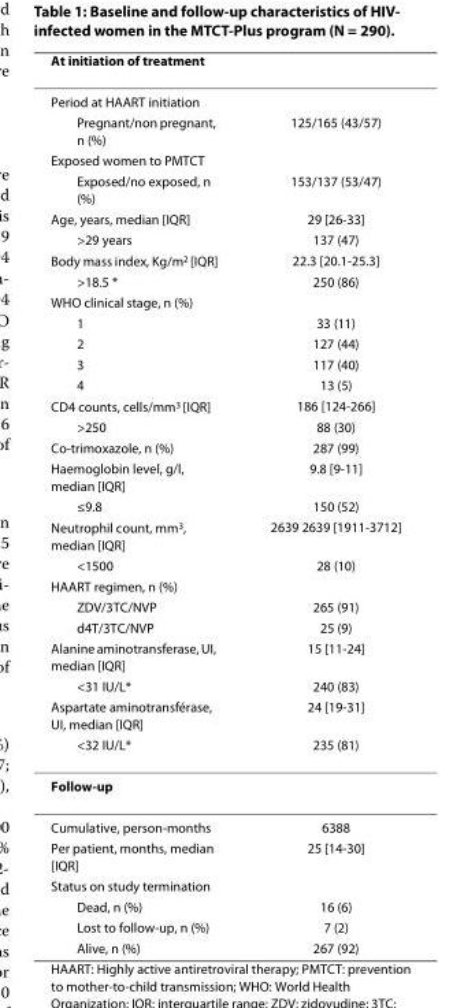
<table><thead><tr><td>At initiation of treatment</td><td></td></tr></thead><tbody><tr><td colspan="2">Period at HAART initiation</td></tr><tr><td>Pregnant/non pregnant, n (%)</td><td>125/165 (43/57)</td></tr><tr><td colspan="2">Exposed women to PMTCT</td></tr><tr><td>Exposed/no exposed, n (%)</td><td>153/137 (53/47)</td></tr><tr><td>Age, years, median [IQR]</td><td>29 [26-33]</td></tr><tr><td>&gt;29 years</td><td>137 (47)</td></tr><tr><td>Body mass index, Kg/m<sup>2</sup> [IQR]</td><td>22.3 [20.1-25.3]</td></tr><tr><td>&gt;18.5 *</td><td>250 (86)</td></tr><tr><td colspan="2">WHO clinical stage, n (%)</td></tr><tr><td>1</td><td>33 (11)</td></tr><tr><td>2</td><td>127 (44)</td></tr><tr><td>3</td><td>117 (40)</td></tr><tr><td>4</td><td>13 (5)</td></tr><tr><td>CD4 counts, cells/mm<sup>3</sup> [IQR]</td><td>186 [124-266]</td></tr><tr><td>&gt;250</td><td>88 (30)</td></tr><tr><td>Co-trimoxazole, n (%)</td><td>287 (99)</td></tr><tr><td>Haemoglobin level, g/l, median [IQR]</td><td>9.8 [9-11]</td></tr><tr><td>≤9.8</td><td>150 (52)</td></tr><tr><td>Neutrophil count, mm<sup>3</sup>, median [IQR]</td><td>2639 2639 [1911-3712]</td></tr><tr><td>&lt;1500</td><td>28 (10)</td></tr><tr><td colspan="2">HAART regimen, n (%)</td></tr><tr><td>ZDV/3TC/NVP</td><td>265 (91)</td></tr><tr><td>d4T/3TC/NVP</td><td>25 (9)</td></tr><tr><td>Alanine aminotransferase, UI, median [IQR]</td><td>15 [11-24]</td></tr><tr><td>&lt;31 IU/L*</td><td>240 (83)</td></tr><tr><td>Aspartate aminotransférase, UI, median [IQR]</td><td>24 [19-31]</td></tr><tr><td>&lt;32 IU/L*</td><td>235 (81)</td></tr><tr><td colspan="2">Follow-up</td></tr><tr><td>Cumulative, person-months</td><td>6388</td></tr><tr><td>Per patient, months, median [IQR]</td><td>25 [14-30]</td></tr><tr><td colspan="2">Status on study termination</td></tr><tr><td>Dead, n (%)</td><td>16 (6)</td></tr><tr><td>Lost to follow-up, n (%)</td><td>7 (2)</td></tr><tr><td>Alive, n (%)</td><td>267 (92)</td></tr></tbody></table>